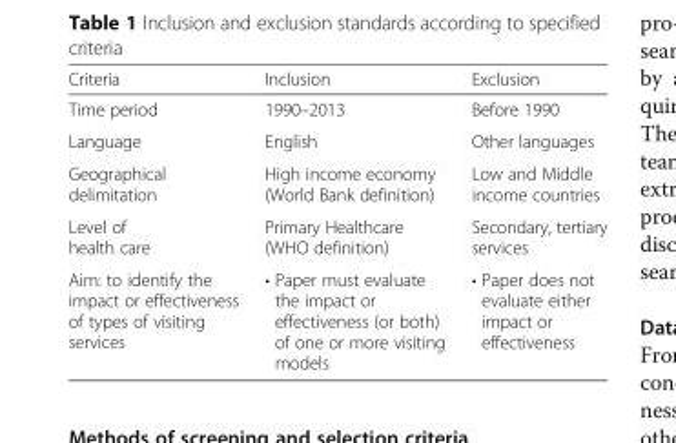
<table><thead><tr><td>Criteria</td><td>Inclusion</td><td>Exclusion</td></tr></thead><tbody><tr><td>Time period</td><td>1990–2013</td><td>Before 1990</td></tr><tr><td>Language</td><td>English</td><td>Other languages</td></tr><tr><td>Geographical delimitation</td><td>High income economy (World Bank definition)</td><td>Low and Middle income countries</td></tr><tr><td>Level of health care</td><td>Primary Healthcare (WHO definition)</td><td>Secondary, tertiary services</td></tr><tr><td>Aim: to identify the impact or effectiveness of types of visiting services</td><td>• Paper must evaluate the impact or effectiveness (or both) of one or more visiting models</td><td>• Paper does not evaluate either impact or effectiveness</td></tr></tbody></table>